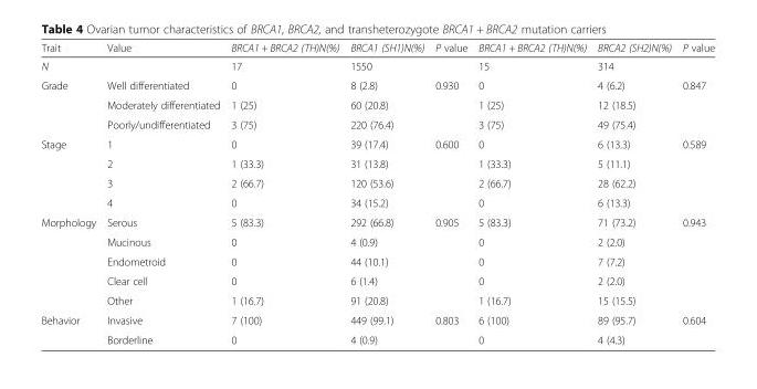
<table><thead><tr><td>Trait</td><td>Value</td><td>BRCA1 + BRCA2 (TH)N(%)</td><td>BRCA1 (SH1)N(%)</td><td>P value</td><td>BRCA1 + BRCA2 (TH)N(%)</td><td>BRCA2 (SH2)N(%)</td><td>P value</td></tr></thead><tbody><tr><td>N</td><td></td><td>17</td><td>1550</td><td></td><td>15</td><td>314</td><td></td></tr><tr><td rowspan="3">Grade</td><td>Well differentiated</td><td>0</td><td>8 (2.8)</td><td>0.930</td><td>0</td><td>4 (6.2)</td><td>0.847</td></tr><tr><td>Moderately differentiated</td><td>1 (25)</td><td>60 (20.8)</td><td></td><td>1 (25)</td><td>12 (18.5)</td><td></td></tr><tr><td>Poorly/undifferentiated</td><td>3 (75)</td><td>220 (76.4)</td><td></td><td>3 (75)</td><td>49 (75.4)</td><td></td></tr><tr><td rowspan="4">Stage</td><td>1</td><td>0</td><td>39 (17.4)</td><td>0.600</td><td>0</td><td>6 (13.3)</td><td>0.589</td></tr><tr><td>2</td><td>1 (33.3)</td><td>31 (13.8)</td><td></td><td>1 (33.3)</td><td>5 (11.1)</td><td></td></tr><tr><td>3</td><td>2 (66.7)</td><td>120 (53.6)</td><td></td><td>2 (66.7)</td><td>28 (62.2)</td><td></td></tr><tr><td>4</td><td>0</td><td>34 (15.2)</td><td></td><td>0</td><td>6 (13.3)</td><td></td></tr><tr><td rowspan="5">Morphology</td><td>Serous</td><td>5 (83.3)</td><td>292 (66.8)</td><td>0.905</td><td>5 (83.3)</td><td>71 (73.2)</td><td>0.943</td></tr><tr><td>Mucinous</td><td>0</td><td>4 (0.9)</td><td></td><td>0</td><td>2 (2.0)</td><td></td></tr><tr><td>Endometroid</td><td>0</td><td>44 (10.1)</td><td></td><td>0</td><td>7 (7.2)</td><td></td></tr><tr><td>Clear cell</td><td>0</td><td>6 (1.4)</td><td></td><td>0</td><td>2 (2.0)</td><td></td></tr><tr><td>Other</td><td>1 (16.7)</td><td>91 (20.8)</td><td></td><td>1 (16.7)</td><td>15 (15.5)</td><td></td></tr><tr><td rowspan="2">Behavior</td><td>Invasive</td><td>7 (100)</td><td>449 (99.1)</td><td>0.803</td><td>6 (100)</td><td>89 (95.7)</td><td>0.604</td></tr><tr><td>Borderline</td><td>0</td><td>4 (0.9)</td><td></td><td>0</td><td>4 (4.3)</td><td></td></tr></tbody></table>